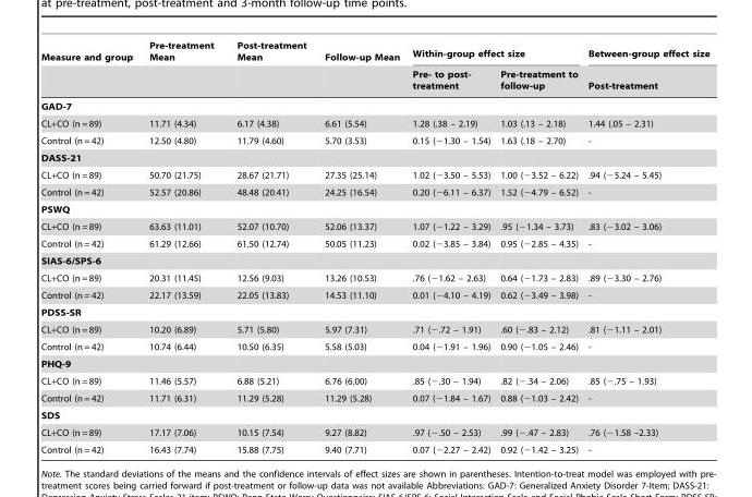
<table><thead><tr><td rowspan="2">Measure and group</td><td rowspan="2">Pre-treatment Mean</td><td rowspan="2">Post-treatment Mean</td><td rowspan="2">Follow-up Mean</td><td colspan="2">Within-group effect size</td><td rowspan="2">Between-group effect size Post-treatment</td></tr><tr><td>Pre- to post- treatment</td><td>Pre-treatment to follow-up</td></tr></thead><tbody><tr><td colspan="7">GAD-7</td></tr><tr><td>CL+CO (n = 89)</td><td>11.71 (4.34)</td><td>6.17 (4.38)</td><td>6.61 (5.54)</td><td>1.28 (.38 – 2.19)</td><td>1.03 (.13 – 2.18)</td><td>1.44 (.05 – 2.31)</td></tr><tr><td>Control (n = 42)</td><td>12.50 (4.80)</td><td>11.79 (4.60)</td><td>5.70 (3.53)</td><td>0.15 (−1.30 – 1.54)</td><td>1.63 (.18 – 2.70)</td><td>-</td></tr><tr><td colspan="7">DASS-21</td></tr><tr><td>CL+CO (n = 89)</td><td>50.70 (21.75)</td><td>28.67 (21.71)</td><td>27.35 (25.14)</td><td>1.02 (−3.50 – 5.53)</td><td>1.00 (−3.52 – 6.22)</td><td>.94 (−5.24 – 5.45)</td></tr><tr><td>Control (n = 42)</td><td>52.57 (20.86)</td><td>48.48 (20.41)</td><td>24.25 (16.54)</td><td>0.20 (−6.11 – 6.37)</td><td>1.52 (−4.79 – 6.52)</td><td>-</td></tr><tr><td colspan="7">PSWQ</td></tr><tr><td>CL+CO (n = 89)</td><td>63.63 (11.01)</td><td>52.07 (10.70)</td><td>52.06 (13.37)</td><td>1.07 (−1.22 – 3.29)</td><td>.95 (−1.34 – 3.73)</td><td>.83 (−3.02 – 3.06)</td></tr><tr><td>Control (n = 42)</td><td>61.29 (12.66)</td><td>61.50 (12.74)</td><td>50.05 (11.23)</td><td>0.02 (−3.85 – 3.84)</td><td>0.95 (−2.85 – 4.35)</td><td>-</td></tr><tr><td colspan="7">SIAS-6/SPS-6</td></tr><tr><td>CL+CO (n = 89)</td><td>20.31 (11.45)</td><td>12.56 (9.03)</td><td>13.26 (10.53)</td><td>.76 (−1.62 – 2.63)</td><td>0.64 (−1.73 – 2.83)</td><td>.89 (−3.30 – 2.76)</td></tr><tr><td>Control (n = 42)</td><td>22.17 (13.59)</td><td>22.05 (13.83)</td><td>14.53 (11.10)</td><td>0.01 (−4.10 – 4.19)</td><td>0.62 (−3.49 – 3.98)</td><td>-</td></tr><tr><td colspan="7">PDSS-SR</td></tr><tr><td>CL+CO (n = 89)</td><td>10.20 (6.89)</td><td>5.71 (5.80)</td><td>5.97 (7.31)</td><td>.71 (−.72 – 1.91)</td><td>.60 (−.83 – 2.12)</td><td>.81 (−1.11 – 2.01)</td></tr><tr><td>Control (n = 42)</td><td>10.74 (6.44)</td><td>10.50 (6.35)</td><td>5.58 (5.03)</td><td>0.04 (−1.91 – 1.96)</td><td>0.90 (−1.05 – 2.46)</td><td>-</td></tr><tr><td colspan="7">PHQ-9</td></tr><tr><td>CL+CO (n = 89)</td><td>11.46 (5.57)</td><td>6.88 (5.21)</td><td>6.76 (6.00)</td><td>.85 (−.30 – 1.94)</td><td>.82 (−.34 – 2.06)</td><td>.85 (−.75 – 1.93)</td></tr><tr><td>Control (n = 42)</td><td>11.71 (6.31)</td><td>11.29 (5.28)</td><td>11.29 (5.28)</td><td>0.07 (−1.84 – 1.67)</td><td>0.88 (−1.03 – 2.42)</td><td>-</td></tr><tr><td colspan="7">SDS</td></tr><tr><td>CL+CO (n = 89)</td><td>17.17 (7.06)</td><td>10.15 (7.54)</td><td>9.27 (8.82)</td><td>.97 (−.50 – 2.53)</td><td>.99 (−.47 – 2.83)</td><td>.76 (−1.58 –2.33)</td></tr><tr><td>Control (n = 42)</td><td>16.43 (7.74)</td><td>15.88 (7.75)</td><td>9.40 (7.71)</td><td>0.07 (−2.27 – 2.42)</td><td>0.92 (−1.42 – 3.25)</td><td>-</td></tr></tbody></table>